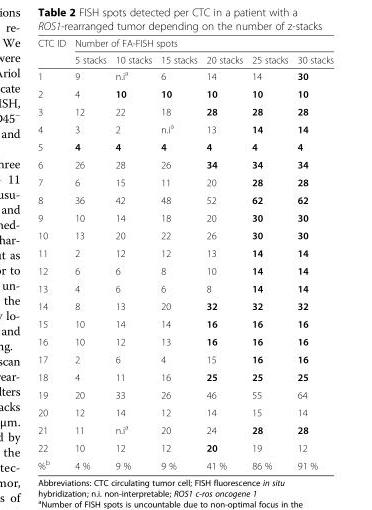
<table><thead><tr><td rowspan="2">CTC ID</td><td colspan="6">Number of FA-FISH spots</td></tr><tr><td>5 stacks</td><td>10 stacks</td><td>15 stacks</td><td>20 stacks</td><td>25 stacks</td><td>30 stacks</td></tr></thead><tbody><tr><td>1</td><td>9</td><td>n.i<sup>a</sup></td><td>6</td><td>14</td><td>14</td><td>30</td></tr><tr><td>2</td><td>4</td><td>10</td><td>10</td><td>10</td><td>10</td><td>10</td></tr><tr><td>3</td><td>12</td><td>22</td><td>18</td><td>28</td><td>28</td><td>28</td></tr><tr><td>4</td><td>3</td><td>2</td><td>n.i<sup>a</sup></td><td>13</td><td>14</td><td>14</td></tr><tr><td>5</td><td>4</td><td>4</td><td>4</td><td>4</td><td>4</td><td>4</td></tr><tr><td>6</td><td>26</td><td>28</td><td>26</td><td>34</td><td>34</td><td>34</td></tr><tr><td>7</td><td>6</td><td>15</td><td>11</td><td>20</td><td>28</td><td>28</td></tr><tr><td>8</td><td>36</td><td>42</td><td>48</td><td>52</td><td>62</td><td>62</td></tr><tr><td>9</td><td>10</td><td>14</td><td>18</td><td>20</td><td>30</td><td>30</td></tr><tr><td>10</td><td>13</td><td>20</td><td>22</td><td>26</td><td>30</td><td>30</td></tr><tr><td>11</td><td>2</td><td>12</td><td>12</td><td>13</td><td>14</td><td>14</td></tr><tr><td>12</td><td>6</td><td>6</td><td>8</td><td>10</td><td>14</td><td>14</td></tr><tr><td>13</td><td>4</td><td>6</td><td>6</td><td>8</td><td>14</td><td>14</td></tr><tr><td>14</td><td>8</td><td>13</td><td>20</td><td>32</td><td>32</td><td>32</td></tr><tr><td>15</td><td>10</td><td>14</td><td>14</td><td>16</td><td>16</td><td>16</td></tr><tr><td>16</td><td>10</td><td>12</td><td>13</td><td>16</td><td>16</td><td>16</td></tr><tr><td>17</td><td>2</td><td>6</td><td>4</td><td>15</td><td>16</td><td>16</td></tr><tr><td>18</td><td>4</td><td>11</td><td>16</td><td>25</td><td>25</td><td>25</td></tr><tr><td>19</td><td>20</td><td>33</td><td>26</td><td>46</td><td>55</td><td>64</td></tr><tr><td>20</td><td>12</td><td>14</td><td>12</td><td>14</td><td>15</td><td>14</td></tr><tr><td>21</td><td>11</td><td>n.i<sup>a</sup></td><td>20</td><td>24</td><td>28</td><td>28</td></tr><tr><td>22</td><td>10</td><td>12</td><td>12</td><td>20</td><td>19</td><td>12</td></tr><tr><td>%<sup>b</sup></td><td>4 %</td><td>9 %</td><td>9 %</td><td>41 %</td><td>86 %</td><td>91 %</td></tr></tbody></table>